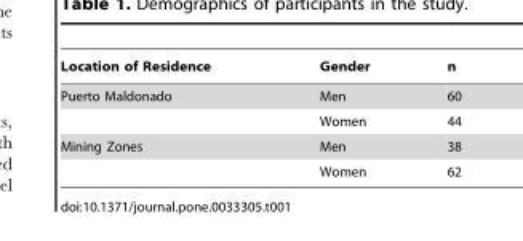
<table><thead><tr><td>Location of Residence</td><td>Gender</td><td>n</td></tr></thead><tbody><tr><td rowspan="2">Puerto Maldonado</td><td>Men</td><td>60</td></tr><tr><td>Women</td><td>44</td></tr><tr><td rowspan="2">Mining Zones</td><td>Men</td><td>38</td></tr><tr><td>Women</td><td>62</td></tr></tbody></table>